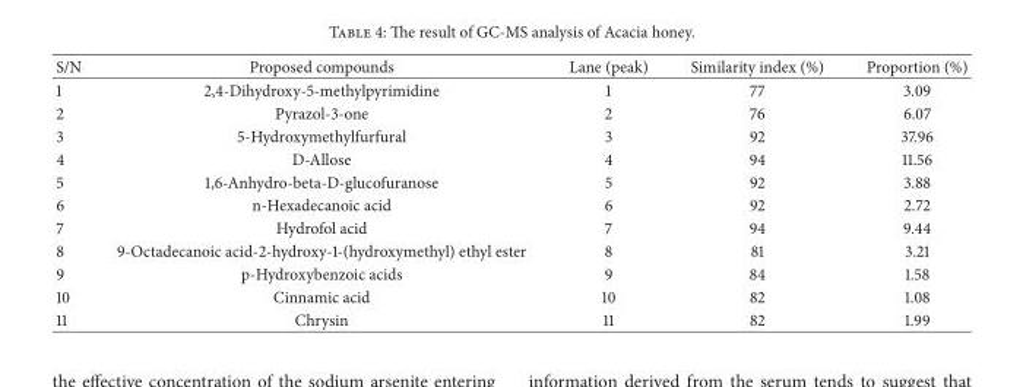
<table><thead><tr><td>S/N</td><td>Proposed compounds</td><td>Lane (peak)</td><td>Similarity index (%)</td><td>Proportion (%)</td></tr></thead><tbody><tr><td>1</td><td>2,4-Dihydroxy-5-methylpyrimidine</td><td>1</td><td>77</td><td>3.09</td></tr><tr><td>2</td><td>Pyrazol-3-one</td><td>2</td><td>76</td><td>6.07</td></tr><tr><td>3</td><td>5-Hydroxymethylfurfural</td><td>3</td><td>92</td><td>37.96</td></tr><tr><td>4</td><td>D-Allose</td><td>4</td><td>94</td><td>11.56</td></tr><tr><td>5</td><td>1,6-Anhydro-beta-D-glucofuranose</td><td>5</td><td>92</td><td>3.88</td></tr><tr><td>6</td><td>n-Hexadecanoic acid</td><td>6</td><td>92</td><td>2.72</td></tr><tr><td>7</td><td>Hydrofol acid</td><td>7</td><td>94</td><td>9.44</td></tr><tr><td>8</td><td>9-Octadecanoic acid-2-hydroxy-1-(hydroxymethyl) ethyl ester</td><td>8</td><td>81</td><td>3.21</td></tr><tr><td>9</td><td>p-Hydroxybenzoic acids</td><td>9</td><td>84</td><td>1.58</td></tr><tr><td>10</td><td>Cinnamic acid</td><td>10</td><td>82</td><td>1.08</td></tr><tr><td>11</td><td>Chrysin</td><td>11</td><td>82</td><td>1.99</td></tr></tbody></table>